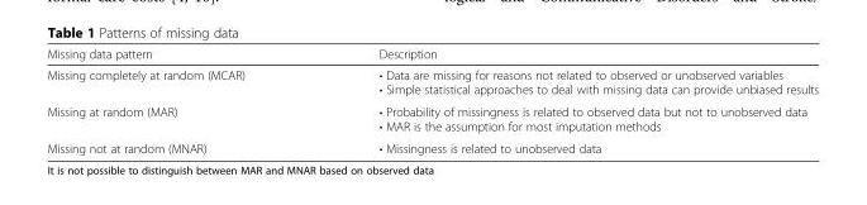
<table><thead><tr><td>Missing data pattern</td><td>Description</td></tr></thead><tbody><tr><td>Missing completely at random (MCAR)</td><td>• Data are missing for reasons not related to observed or unobserved variables • Simple statistical approaches to deal with missing data can provide unbiased results</td></tr><tr><td>Missing at random (MAR)</td><td>• Probability of missingness is related to observed data but not to unobserved data • MAR is the assumption for most imputation methods</td></tr><tr><td>Missing not at random (MNAR)</td><td>• Missingness is related to unobserved data</td></tr></tbody></table>